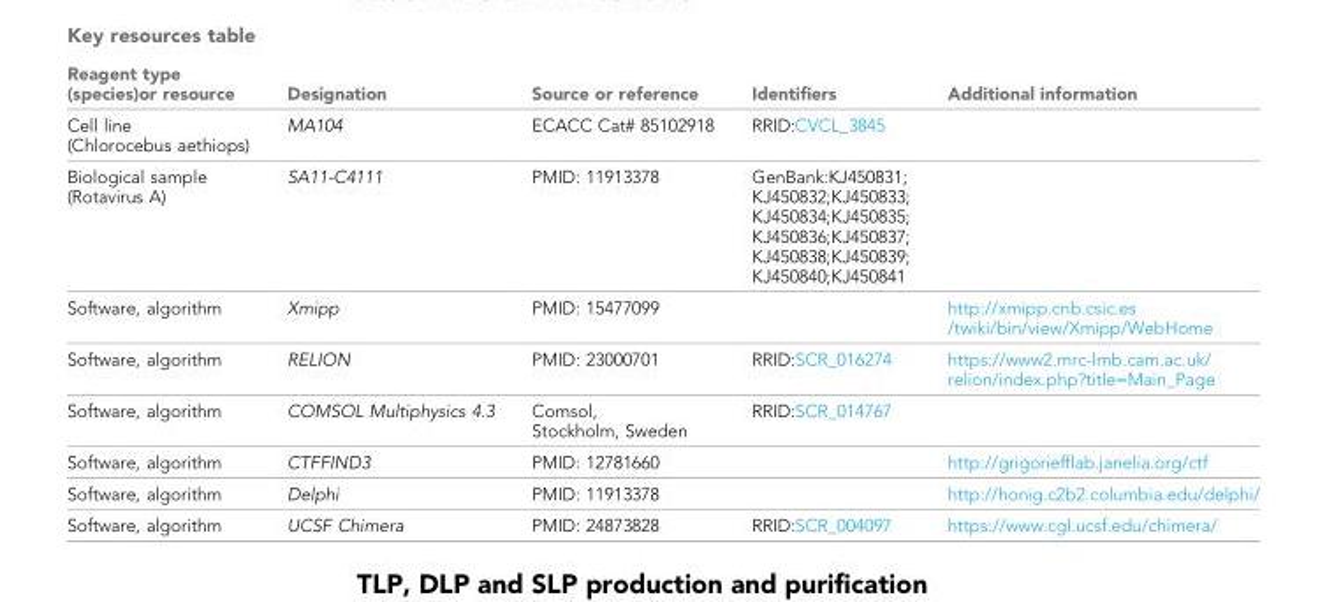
<table><thead><tr><td>Reagent type (species)or resource</td><td>Designation</td><td>Source or reference</td><td>Identifiers</td><td>Additional information</td></tr></thead><tbody><tr><td>Cell line (Chlorocebus aethiops)</td><td>MA104</td><td>ECACC Cat# 85102918</td><td>RRID:CVCL_3845</td><td></td></tr><tr><td>Biological sample (Rotavirus A)</td><td>SA11-C4111</td><td>PMID: 11913378</td><td>GenBank:KJ450831; KJ450832;KJ450833; KJ450834;KJ450835; KJ450836;KJ450837; KJ450838;KJ450839; KJ450840;KJ450841</td><td></td></tr><tr><td>Software, algorithm</td><td>Xmipp</td><td>PMID: 15477099</td><td></td><td>http://xmipp.cnb.csic.es /twiki/bin/view/Xmipp/WebHome</td></tr><tr><td>Software, algorithm</td><td>RELION</td><td>PMID: 23000701</td><td>RRID:SCR_016274</td><td>https://www2.mrc-lmb.cam.ac.uk/ relion/index.php?title=Main_Page</td></tr><tr><td>Software, algorithm</td><td>COMSOL Multiphysics 4.3</td><td>Comsol, Stockholm, Sweden</td><td>RRID:SCR_014767</td><td></td></tr><tr><td>Software, algorithm</td><td>CTFFIND3</td><td>PMID: 12781660</td><td></td><td>http://grigoriefflab.janelia.org/ctf</td></tr><tr><td>Software, algorithm</td><td>Delphi</td><td>PMID: 11913378</td><td></td><td>http://honig.c2b2.columbia.edu/delphi/</td></tr><tr><td>Software, algorithm</td><td>UCSF Chimera</td><td>PMID: 24873828</td><td>RRID:SCR_004097</td><td>https://www.cgl.ucsf.edu/chimera/</td></tr></tbody></table>